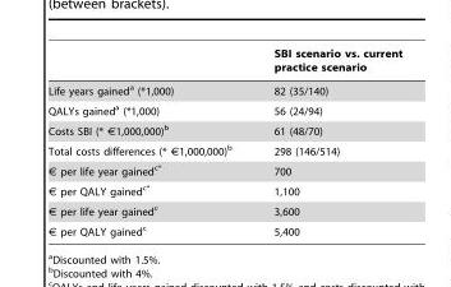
<table><thead><tr><td></td><td>SBI scenario vs. current practice scenario</td></tr></thead><tbody><tr><td>Life years gained<sup>a</sup> (*1,000)</td><td>82 (35/140)</td></tr><tr><td>QALYs gained<sup>a</sup> (*1,000)</td><td>56 (24/94)</td></tr><tr><td>Costs SBI (* €1,000,000)<sup>b</sup></td><td>61 (48/70)</td></tr><tr><td>Total costs differences (* €1,000,000)<sup>b</sup></td><td>298 (146/514)</td></tr><tr><td>€ per life year gained<sup>c</sup>*</td><td>700</td></tr><tr><td>€ per QALY gained<sup>c</sup>*</td><td>1,100</td></tr><tr><td>€ per life year gained<sup>c</sup></td><td>3,600</td></tr><tr><td>€ per QALY gained<sup>c</sup></td><td>5,400</td></tr></tbody></table>